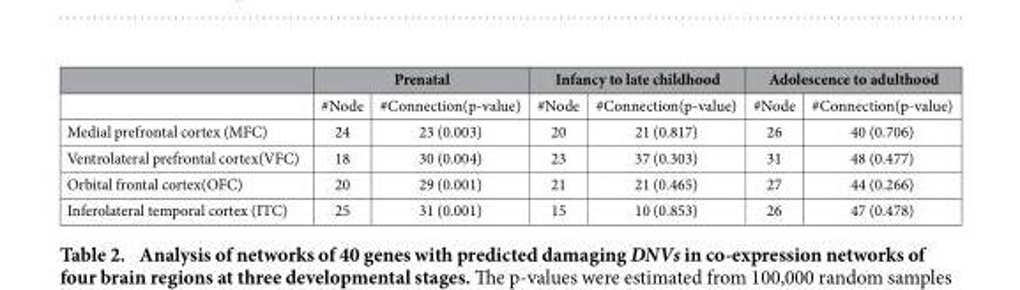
<table><thead><tr><td rowspan="2"></td><td colspan="2">Prenatal</td><td colspan="2">Infancy to late childhood</td><td colspan="2">Adolescence to adulthood</td></tr><tr><td>#Node</td><td>#Connection(p-value)</td><td>#Node</td><td>#Connection(p-value)</td><td>#Node</td><td>#Connection(p-value)</td></tr></thead><tbody><tr><td>Medial prefrontal cortex (MFC)</td><td>24</td><td>23 (0.003)</td><td>20</td><td>21 (0.817)</td><td>26</td><td>40 (0.706)</td></tr><tr><td>Ventrolateral prefrontal cortex(VFC)</td><td>18</td><td>30 (0.004)</td><td>23</td><td>37 (0.303)</td><td>31</td><td>48 (0.477)</td></tr><tr><td>Orbital frontal cortex(OFC)</td><td>20</td><td>29 (0.001)</td><td>21</td><td>21 (0.465)</td><td>27</td><td>44 (0.266)</td></tr><tr><td>Inferolateral temporal cortex (ITC)</td><td>25</td><td>31 (0.001)</td><td>15</td><td>10 (0.853)</td><td>26</td><td>47 (0.478)</td></tr></tbody></table>